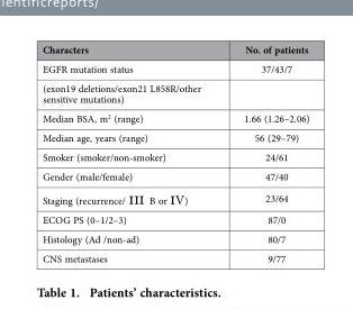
<table><thead><tr><td>Characters</td><td>No. of patients</td></tr></thead><tbody><tr><td>EGFR mutation status</td><td>37/43/7</td></tr><tr><td colspan="2">(exon19 deletions/exon21 L858R/other sensitive mutations)</td></tr><tr><td>Median BSA, m<sup>2</sup> (range)</td><td>1.66 (1.26–2.06)</td></tr><tr><td>Median age, years (range)</td><td>56 (29–79)</td></tr><tr><td>Smoker (smoker/non-smoker)</td><td>24/61</td></tr><tr><td>Gender (male/female)</td><td>47/40</td></tr><tr><td>Staging (recurrence/ ııı B or ıV)</td><td>23/64</td></tr><tr><td>ECOG PS (0–1/2–3)</td><td>87/0</td></tr><tr><td>Histology (Ad /non-ad)</td><td>80/7</td></tr><tr><td>CNS metastases</td><td>9/77</td></tr></tbody></table>